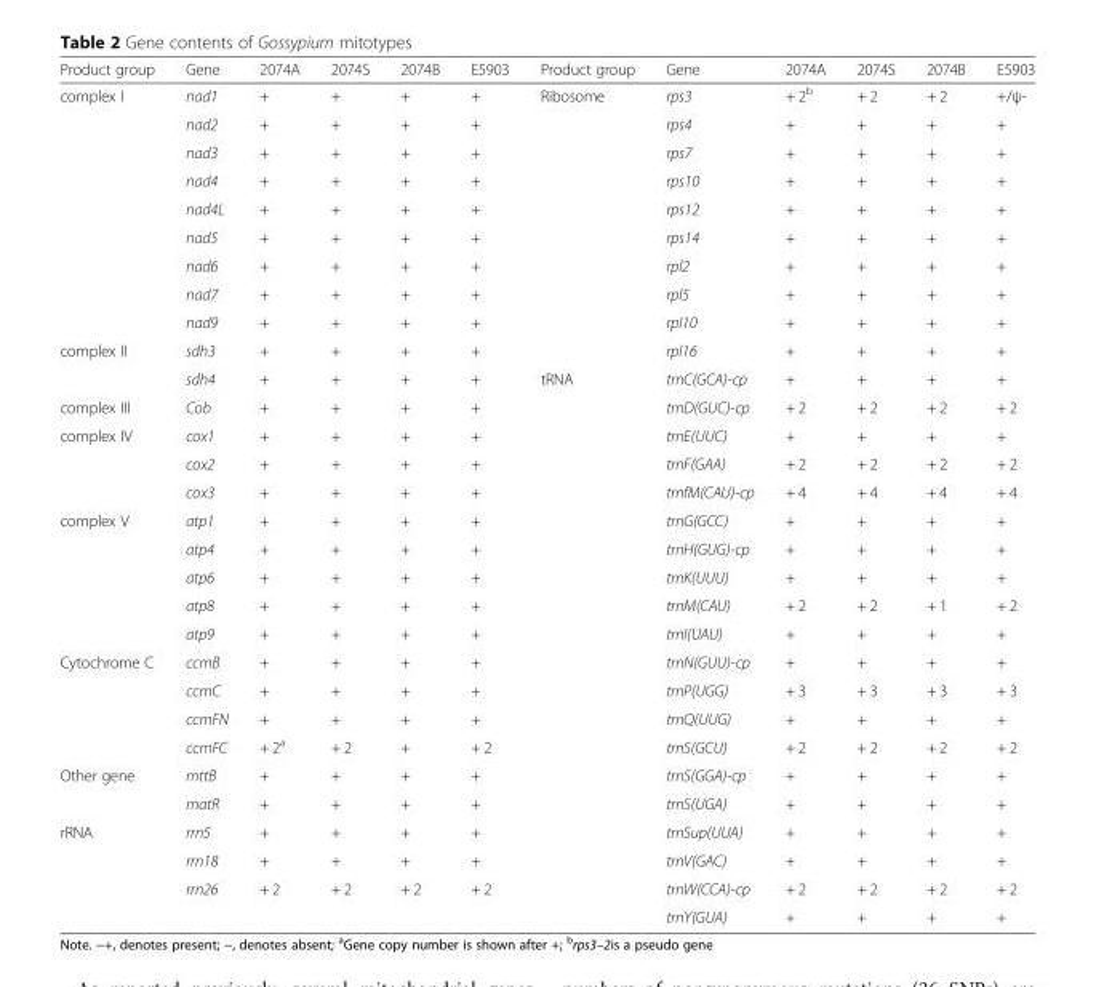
<table><thead><tr><td>Product group</td><td>Gene</td><td>2074A</td><td>2074S</td><td>2074B</td><td>E5903</td><td>Product group</td><td>Gene</td><td>2074A</td><td>2074S</td><td>2074B</td><td>E5903</td></tr></thead><tbody><tr><td rowspan="9">complex I</td><td>nad1</td><td>+</td><td>+</td><td>+</td><td>+</td><td>Ribosome</td><td>rps3</td><td>+ 2<sup>b</sup></td><td>+ 2</td><td>+ 2</td><td>+/ψ-</td></tr><tr><td>nad2</td><td>+</td><td>+</td><td>+</td><td>+</td><td></td><td>rps4</td><td>+</td><td>+</td><td>+</td><td>+</td></tr><tr><td>nad3</td><td>+</td><td>+</td><td>+</td><td>+</td><td></td><td>rps7</td><td>+</td><td>+</td><td>+</td><td>+</td></tr><tr><td>nad4</td><td>+</td><td>+</td><td>+</td><td>+</td><td></td><td>rps10</td><td>+</td><td>+</td><td>+</td><td>+</td></tr><tr><td>nad4L</td><td>+</td><td>+</td><td>+</td><td>+</td><td></td><td>rps12</td><td>+</td><td>+</td><td>+</td><td>+</td></tr><tr><td>nad5</td><td>+</td><td>+</td><td>+</td><td>+</td><td></td><td>rps14</td><td>+</td><td>+</td><td>+</td><td>+</td></tr><tr><td>nad6</td><td>+</td><td>+</td><td>+</td><td>+</td><td></td><td>rpl2</td><td>+</td><td>+</td><td>+</td><td>+</td></tr><tr><td>nad7</td><td>+</td><td>+</td><td>+</td><td>+</td><td></td><td>rpl5</td><td>+</td><td>+</td><td>+</td><td>+</td></tr><tr><td>nad9</td><td>+</td><td>+</td><td>+</td><td>+</td><td></td><td>rpl10</td><td>+</td><td>+</td><td>+</td><td>+</td></tr><tr><td rowspan="2">complex II</td><td>sdh3</td><td>+</td><td>+</td><td>+</td><td>+</td><td></td><td>rpl16</td><td>+</td><td>+</td><td>+</td><td>+</td></tr><tr><td>sdh4</td><td>+</td><td>+</td><td>+</td><td>+</td><td>tRNA</td><td>trnC(GCA)-cp</td><td>+</td><td>+</td><td>+</td><td>+</td></tr><tr><td>complex III</td><td>Cob</td><td>+</td><td>+</td><td>+</td><td>+</td><td></td><td>trnD(GUC)-cp</td><td>+ 2</td><td>+ 2</td><td>+ 2</td><td>+ 2</td></tr><tr><td rowspan="3">complex IV</td><td>cox1</td><td>+</td><td>+</td><td>+</td><td>+</td><td></td><td>trnE(UUC)</td><td>+</td><td>+</td><td>+</td><td>+</td></tr><tr><td>cox2</td><td>+</td><td>+</td><td>+</td><td>+</td><td></td><td>trnF(GAA)</td><td>+ 2</td><td>+ 2</td><td>+ 2</td><td>+ 2</td></tr><tr><td>cox3</td><td>+</td><td>+</td><td>+</td><td>+</td><td></td><td>trnfM(CAU)-cp</td><td>+ 4</td><td>+ 4</td><td>+ 4</td><td>+ 4</td></tr><tr><td rowspan="5">complex V</td><td>atp1</td><td>+</td><td>+</td><td>+</td><td>+</td><td></td><td>trnG(GCC)</td><td>+</td><td>+</td><td>+</td><td>+</td></tr><tr><td>atp4</td><td>+</td><td>+</td><td>+</td><td>+</td><td></td><td>trnH(GUG)-cp</td><td>+</td><td>+</td><td>+</td><td>+</td></tr><tr><td>atp6</td><td>+</td><td>+</td><td>+</td><td>+</td><td></td><td>trnK(UUU)</td><td>+</td><td>+</td><td>+</td><td>+</td></tr><tr><td>atp8</td><td>+</td><td>+</td><td>+</td><td>+</td><td></td><td>trnM(CAU)</td><td>+ 2</td><td>+ 2</td><td>+ 1</td><td>+ 2</td></tr><tr><td>atp9</td><td>+</td><td>+</td><td>+</td><td>+</td><td></td><td>trnI(UAU)</td><td>+</td><td>+</td><td>+</td><td>+</td></tr><tr><td rowspan="4">Cytochrome C</td><td>ccmB</td><td>+</td><td>+</td><td>+</td><td>+</td><td></td><td>trnN(GUU)-cp</td><td>+</td><td>+</td><td>+</td><td>+</td></tr><tr><td>ccmC</td><td>+</td><td>+</td><td>+</td><td>+</td><td></td><td>trnP(UGG)</td><td>+ 3</td><td>+ 3</td><td>+ 3</td><td>+ 3</td></tr><tr><td>ccmFN</td><td>+</td><td>+</td><td>+</td><td>+</td><td></td><td>trnQ(UUG)</td><td>+</td><td>+</td><td>+</td><td>+</td></tr><tr><td>ccmFC</td><td>+ 2<sup>a</sup></td><td>+ 2</td><td>+</td><td>+ 2</td><td></td><td>trnS(GCU)</td><td>+ 2</td><td>+ 2</td><td>+ 2</td><td>+ 2</td></tr><tr><td rowspan="2">Other gene</td><td>mttB</td><td>+</td><td>+</td><td>+</td><td>+</td><td></td><td>trnS(GGA)-cp</td><td>+</td><td>+</td><td>+</td><td>+</td></tr><tr><td>matR</td><td>+</td><td>+</td><td>+</td><td>+</td><td></td><td>trnS(UGA)</td><td>+</td><td>+</td><td>+</td><td>+</td></tr><tr><td rowspan="4">rRNA</td><td>rrn5</td><td>+</td><td>+</td><td>+</td><td>+</td><td></td><td>trnSup(UUA)</td><td>+</td><td>+</td><td>+</td><td>+</td></tr><tr><td>rrn18</td><td>+</td><td>+</td><td>+</td><td>+</td><td></td><td>trnV(GAC)</td><td>+</td><td>+</td><td>+</td><td>+</td></tr><tr><td>rrn26</td><td>+ 2</td><td>+ 2</td><td>+ 2</td><td>+ 2</td><td></td><td>trnW(CCA)-cp</td><td>+ 2</td><td>+ 2</td><td>+ 2</td><td>+ 2</td></tr><tr><td></td><td></td><td></td><td></td><td></td><td></td><td>trnY(GUA)</td><td>+</td><td>+</td><td>+</td><td>+</td></tr></tbody></table>